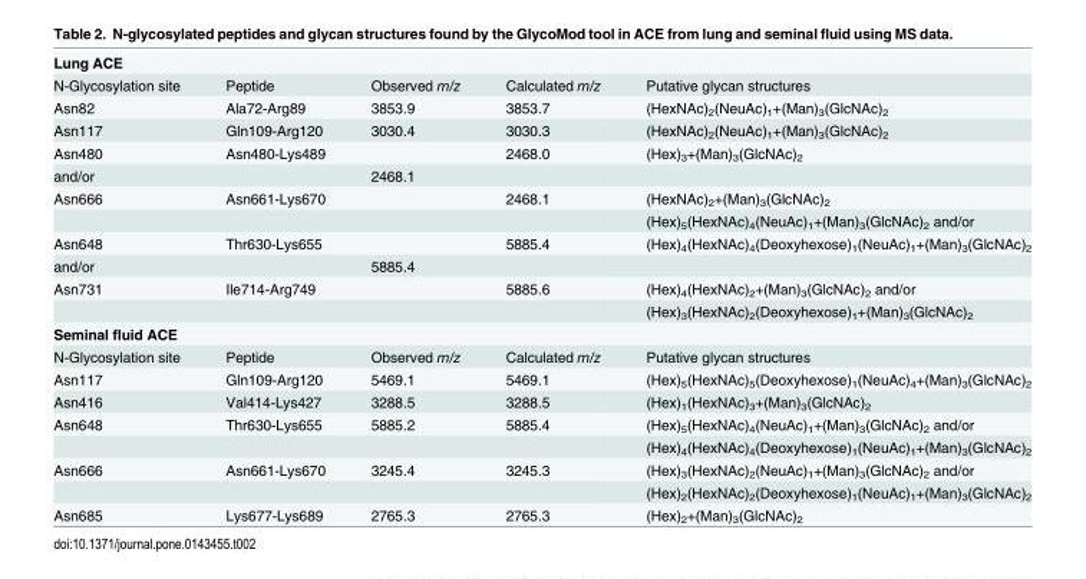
<table><tbody><tr><td colspan="5">Lung ACE</td></tr><tr><td>N-Glycosylation site</td><td>Peptide</td><td>Observed m/z</td><td>Calculated m/z</td><td>Putative glycan structures</td></tr><tr><td>Asn82</td><td>Ala72-Arg89</td><td>3853.9</td><td>3853.7</td><td>(HexNAc)<sub>2</sub>(NeuAc)<sub>1</sub>+(Man)<sub>3</sub>(GlcNAc)<sub>2</sub></td></tr><tr><td>Asn117</td><td>Gln109-Arg120</td><td>3030.4</td><td>3030.3</td><td>(HexNAc)<sub>2</sub>(NeuAc)<sub>1</sub>+(Man)<sub>3</sub>(GlcNAc)<sub>2</sub></td></tr><tr><td>Asn480</td><td>Asn480-Lys489</td><td></td><td>2468.0</td><td>(Hex)<sub>3</sub>+(Man)<sub>3</sub>(GlcNAc)<sub>2</sub></td></tr><tr><td colspan="2">and/or</td><td>2468.1</td><td></td><td></td></tr><tr><td rowspan="2">Asn666</td><td>Asn661-Lys670</td><td></td><td>2468.1</td><td>(HexNAc)<sub>2</sub>+(Man)<sub>3</sub>(GlcNAc)<sub>2</sub></td></tr><tr><td></td><td></td><td></td><td>(Hex)<sub>5</sub>(HexNAc)<sub>4</sub>(NeuAc)<sub>1</sub>+(Man)<sub>3</sub>(GlcNAc)<sub>2</sub> and/or</td></tr><tr><td>Asn648</td><td>Thr630-Lys655</td><td></td><td>5885.4</td><td>(Hex)<sub>4</sub>(HexNAc)<sub>4</sub>(Deoxyhexose)<sub>1</sub>(NeuAc)<sub>1</sub>+(Man)<sub>3</sub>(GlcNAc)<sub>2</sub></td></tr><tr><td colspan="2">and/or</td><td>5885.4</td><td></td><td></td></tr><tr><td rowspan="2">Asn731</td><td>Ile714-Arg749</td><td></td><td>5885.6</td><td>(Hex)<sub>4</sub>(HexNAc)<sub>2</sub>+(Man)<sub>3</sub>(GlcNAc)<sub>2</sub> and/or</td></tr><tr><td></td><td></td><td></td><td>(Hex)<sub>3</sub>(HexNAc)<sub>2</sub>(Deoxyhexose)<sub>1</sub>+(Man)<sub>3</sub>(GlcNAc)<sub>2</sub></td></tr><tr><td colspan="5">Seminal fluid ACE</td></tr><tr><td>N-Glycosylation site</td><td>Peptide</td><td>Observed m/z</td><td>Calculated m/z</td><td>Putative glycan structures</td></tr><tr><td>Asn117</td><td>Gln109-Arg120</td><td>5469.1</td><td>5469.1</td><td>(Hex)<sub>5</sub>(HexNAc)<sub>5</sub>(Deoxyhexose)<sub>1</sub>(NeuAc)<sub>4</sub>+(Man)<sub>3</sub>(GlcNAc)<sub>2</sub></td></tr><tr><td>Asn416</td><td>Val414-Lys427</td><td>3288.5</td><td>3288.5</td><td>(Hex)<sub>1</sub>(HexNAc)<sub>3</sub>+(Man)<sub>3</sub>(GlcNAc)<sub>2</sub></td></tr><tr><td rowspan="2">Asn648</td><td>Thr630-Lys655</td><td>5885.2</td><td>5885.4</td><td>(Hex)<sub>5</sub>(HexNAc)<sub>4</sub>(NeuAc)<sub>1</sub>+(Man)<sub>3</sub>(GlcNAc)<sub>2</sub> and/or</td></tr><tr><td></td><td></td><td></td><td>(Hex)<sub>4</sub>(HexNAc)<sub>4</sub>(Deoxyhexose)<sub>1</sub>(NeuAc)<sub>1</sub>+(Man)<sub>3</sub>(GlcNAc)<sub>2</sub></td></tr><tr><td rowspan="2">Asn666</td><td>Asn661-Lys670</td><td>3245.4</td><td>3245.3</td><td>(Hex)<sub>3</sub>(HexNAc)<sub>2</sub>(NeuAc)<sub>1</sub>+(Man)<sub>3</sub>(GlcNAc)<sub>2</sub> and/or</td></tr><tr><td></td><td></td><td></td><td>(Hex)<sub>2</sub>(HexNAc)<sub>2</sub>(Deoxyhexose)<sub>1</sub>(NeuAc)<sub>1</sub>+(Man)<sub>3</sub>(GlcNAc)<sub>2</sub></td></tr><tr><td>Asn685</td><td>Lys677-Lys689</td><td>2765.3</td><td>2765.3</td><td>(Hex)<sub>2</sub>+(Man)<sub>3</sub>(GlcNAc)<sub>2</sub></td></tr></tbody></table>